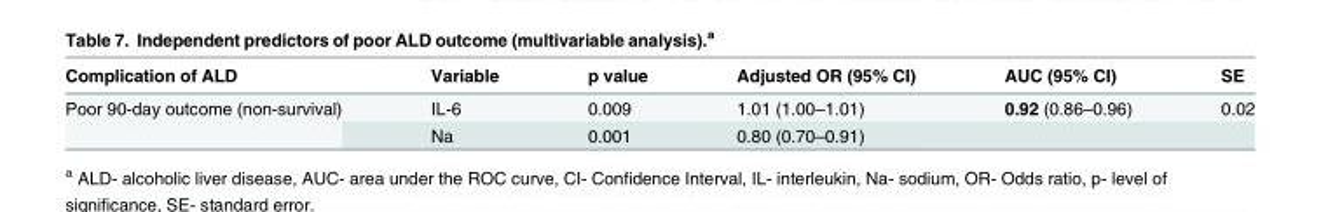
<table><thead><tr><td>Complication of ALD</td><td>Variable</td><td>p value</td><td>Adjusted OR (95% CI)</td><td>AUC (95% CI)</td><td>SE</td></tr></thead><tbody><tr><td rowspan="2">Poor 90-day outcome (non-survival)</td><td>IL-6</td><td>0.009</td><td>1.01 (1.00–1.01)</td><td>0.92 (0.86–0.96)</td><td>0.02</td></tr><tr><td>Na</td><td>0.001</td><td>0.80 (0.70–0.91)</td><td></td><td></td></tr></tbody></table>